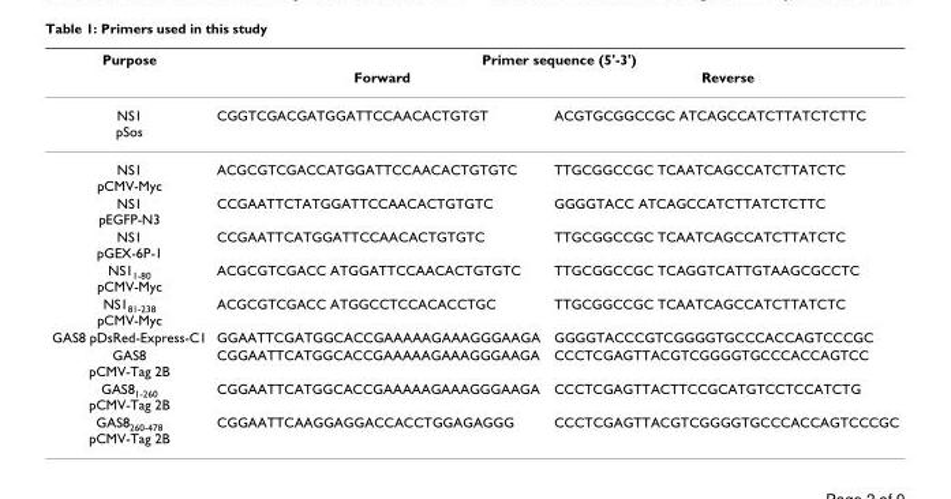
<table><thead><tr><td rowspan="2">Purpose</td><td colspan="2">Primer sequence (5&#x27;-3&#x27;)</td></tr><tr><td>Forward</td><td>Reverse</td></tr></thead><tbody><tr><td>NS1 pSos</td><td>CGGTCGACGATGGATTCCAACACTGTGT</td><td>ACGTGCGGCCGC ATCAGCCATCTTATCTCTTC</td></tr><tr><td>NS1 pCMV-Myc</td><td>ACGCGTCGACCATGGATTCCAACACTGTGTC</td><td>TTGCGGCCGC TCAATCAGCCATCTTATCTC</td></tr><tr><td>NS1 pEGFP-N3</td><td>CCGAATTCTATGGATTCCAACACTGTGTC</td><td>GGGGTACC ATCAGCCATCTTATCTCTTC</td></tr><tr><td>NS1 pGEX-6P-1</td><td>CCGAATTCATGGATTCCAACACTGTGTC</td><td>TTGCGGCCGC TCAATCAGCCATCTTATCTC</td></tr><tr><td>NS1<sub>1-80</sub> pCMV-Myc</td><td>ACGCGTCGACC ATGGATTCCAACACTGTGTC</td><td>TTGCGGCCGC TCAGGTCATTGTAAGCGCCTC</td></tr><tr><td>NS1<sub>81-238</sub> pCMV-Myc</td><td>ACGCGTCGACC ATGGCCTCCACACCTGC</td><td>TTGCGGCCGC TCAATCAGCCATCTTATCTC</td></tr><tr><td>GAS8 pDsRed-Express-C1</td><td>GGAATTCGATGGCACCGAAAAAGAAAGGGAAGA</td><td>GGGGTACCCGTCGGGGTGCCCACCAGTCCCGC</td></tr><tr><td>GAS8 pCMV-Tag 2B</td><td>CGGAATTCATGGCACCGAAAAAGAAAGGGAAGA</td><td>CCCTCGAGTTACGTCGGGGTGCCCACCAGTCC</td></tr><tr><td>GAS8<sub>1-260</sub> pCMV-Tag 2B</td><td>CGGAATTCATGGCACCGAAAAAGAAAGGGAAGA</td><td>CCCTCGAGTTACTTCCGCATGTCCTCCATCTG</td></tr><tr><td>GAS8<sub>260-478</sub> pCMV-Tag 2B</td><td>CGGAATTCAAGGAGGACCACCTGGAGAGGG</td><td>CCCTCGAGTTACGTCGGGGTGCCCACCAGTCCCGC</td></tr></tbody></table>